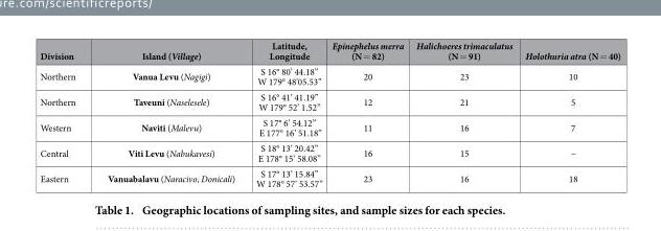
<table><thead><tr><td>Division</td><td>Island (Village)</td><td>Latitude, Longitude</td><td>Epinephelus merra (N = 82)</td><td>Halichoeres trimaculatus (N = 91)</td><td>Holothuria atra (N = 40)</td></tr></thead><tbody><tr><td>Northern</td><td>Vanua Levu (Nagigi)</td><td>S 16° 80’ 44.18” W 179° 48&#x27;05.53”</td><td>20</td><td>23</td><td>10</td></tr><tr><td>Northern</td><td>Taveuni (Naselesele)</td><td>S 16° 41’ 41.19” W 179° 52’ 1.52”</td><td>12</td><td>21</td><td>5</td></tr><tr><td>Western</td><td>Naviti (Malevu)</td><td>S 17° 6’ 54.12” E 177° 16’ 51.18”</td><td>11</td><td>16</td><td>7</td></tr><tr><td>Central</td><td>Viti Levu (Nabukavesi)</td><td>S 18° 13’ 20.42” E 178° 15’ 58.08”</td><td>16</td><td>15</td><td>–</td></tr><tr><td>Eastern</td><td>Vanuabalavu (Naracivo, Donicali)</td><td>S 17° 13’ 15.84” W 178° 57’ 53.57”</td><td>23</td><td>16</td><td>18</td></tr></tbody></table>